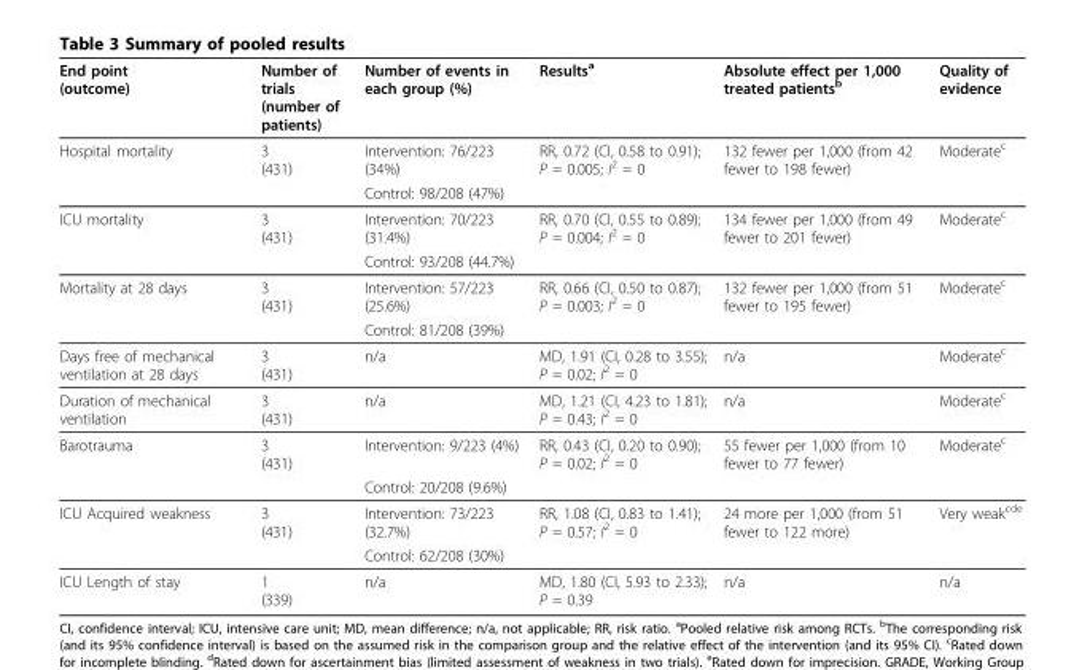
<table><thead><tr><td>End point (outcome)</td><td>Number of trials (number of patients)</td><td>Number of events in each group (%)</td><td>Results<sup>a</sup></td><td>Absolute effect per 1,000 treated patients<sup>b</sup></td><td>Quality of evidence</td></tr></thead><tbody><tr><td rowspan="2">Hospital mortality</td><td>3 (431)</td><td>Intervention: 76/223 (34%)</td><td>RR, 0.72 (CI, 0.58 to 0.91); P = 0.005; I<sup>2</sup> = 0</td><td>132 fewer per 1,000 (from 42 fewer to 198 fewer)</td><td>Moderate<sup>c</sup></td></tr><tr><td></td><td>Control: 98/208 (47%)</td><td></td><td></td><td></td></tr><tr><td rowspan="2">ICU mortality</td><td>3 (431)</td><td>Intervention: 70/223 (31.4%)</td><td>RR, 0.70 (CI, 0.55 to 0.89); P = 0.004; I<sup>2</sup> = 0</td><td>134 fewer per 1,000 (from 49 fewer to 201 fewer)</td><td>Moderate<sup>c</sup></td></tr><tr><td></td><td>Control: 93/208 (44.7%)</td><td></td><td></td><td></td></tr><tr><td rowspan="2">Mortality at 28 days</td><td>3 (431)</td><td>Intervention: 57/223 (25.6%)</td><td>RR, 0.66 (CI, 0.50 to 0.87); P = 0.003; I<sup>2</sup> = 0</td><td>132 fewer per 1,000 (from 51 fewer to 195 fewer)</td><td>Moderate<sup>c</sup></td></tr><tr><td></td><td>Control: 81/208 (39%)</td><td></td><td></td><td></td></tr><tr><td>Days free of mechanical ventilation at 28 days</td><td>3 (431)</td><td>n/a</td><td>MD, 1.91 (CI, 0.28 to 3.55); P = 0.02; I<sup>2</sup> = 0</td><td>n/a</td><td>Moderate<sup>c</sup></td></tr><tr><td>Duration of mechanical ventilation</td><td>3 (431)</td><td>n/a</td><td>MD, 1.21 (CI, 4.23 to 1.81); P = 0.43; I<sup>2</sup> = 0</td><td>n/a</td><td>Moderate<sup>c</sup></td></tr><tr><td rowspan="2">Barotrauma</td><td>3 (431)</td><td>Intervention: 9/223 (4%)</td><td>RR, 0.43 (CI, 0.20 to 0.90); P = 0.02; I<sup>2</sup> = 0</td><td>55 fewer per 1,000 (from 10 fewer to 77 fewer)</td><td>Moderate<sup>c</sup></td></tr><tr><td></td><td>Control: 20/208 (9.6%)</td><td></td><td></td><td></td></tr><tr><td rowspan="2">ICU Acquired weakness</td><td>3 (431)</td><td>Intervention: 73/223 (32.7%)</td><td>RR, 1.08 (CI, 0.83 to 1.41); P = 0.57; I<sup>2</sup> = 0</td><td>24 more per 1,000 (from 51 fewer to 122 more)</td><td>Very weak<sup>cde</sup></td></tr><tr><td></td><td>Control: 62/208 (30%)</td><td></td><td></td><td></td></tr><tr><td>ICU Length of stay</td><td>1 (339)</td><td>n/a</td><td>MD, 1.80 (CI, 5.93 to 2.33); P = 0.39</td><td>n/a</td><td>n/a</td></tr></tbody></table>